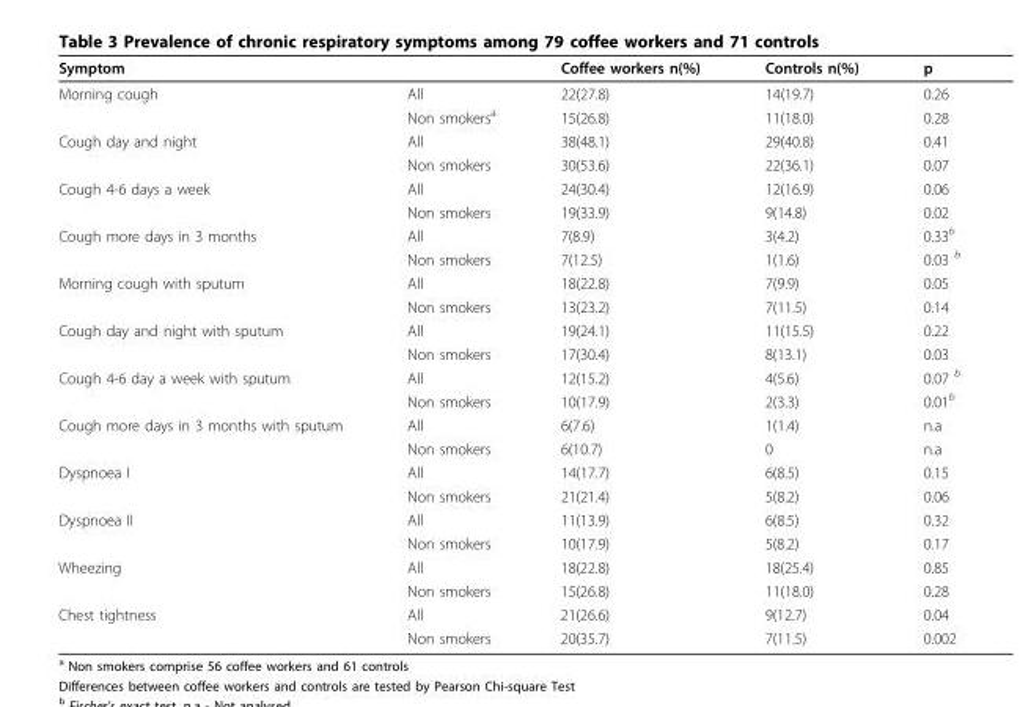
<table><thead><tr><td>Symptom</td><td></td><td>Coffee workers n(%)</td><td>Controls n(%)</td><td>p</td></tr></thead><tbody><tr><td rowspan="2">Morning cough</td><td>All</td><td>22(27.8)</td><td>14(19.7)</td><td>0.26</td></tr><tr><td>Non smokers<sup>a</sup></td><td>15(26.8)</td><td>11(18.0)</td><td>0.28</td></tr><tr><td rowspan="2">Cough day and night</td><td>All</td><td>38(48.1)</td><td>29(40.8)</td><td>0.41</td></tr><tr><td>Non smokers</td><td>30(53.6)</td><td>22(36.1)</td><td>0.07</td></tr><tr><td rowspan="2">Cough 4-6 days a week</td><td>All</td><td>24(30.4)</td><td>12(16.9)</td><td>0.06</td></tr><tr><td>Non smokers</td><td>19(33.9)</td><td>9(14.8)</td><td>0.02</td></tr><tr><td rowspan="2">Cough more days in 3 months</td><td>All</td><td>7(8.9)</td><td>3(4.2)</td><td>0.33<sup>b</sup></td></tr><tr><td>Non smokers</td><td>7(12.5)</td><td>1(1.6)</td><td>0.03 <sup>b</sup></td></tr><tr><td rowspan="2">Morning cough with sputum</td><td>All</td><td>18(22.8)</td><td>7(9.9)</td><td>0.05</td></tr><tr><td>Non smokers</td><td>13(23.2)</td><td>7(11.5)</td><td>0.14</td></tr><tr><td rowspan="2">Cough day and night with sputum</td><td>All</td><td>19(24.1)</td><td>11(15.5)</td><td>0.22</td></tr><tr><td>Non smokers</td><td>17(30.4)</td><td>8(13.1)</td><td>0.03</td></tr><tr><td rowspan="2">Cough 4-6 day a week with sputum</td><td>All</td><td>12(15.2)</td><td>4(5.6)</td><td>0.07 <sup>b</sup></td></tr><tr><td>Non smokers</td><td>10(17.9)</td><td>2(3.3)</td><td>0.01<sup>b</sup></td></tr><tr><td rowspan="2">Cough more days in 3 months with sputum</td><td>All</td><td>6(7.6)</td><td>1(1.4)</td><td>n.a</td></tr><tr><td>Non smokers</td><td>6(10.7)</td><td>0</td><td>n.a</td></tr><tr><td rowspan="2">Dyspnoea I</td><td>All</td><td>14(17.7)</td><td>6(8.5)</td><td>0.15</td></tr><tr><td>Non smokers</td><td>21(21.4)</td><td>5(8.2)</td><td>0.06</td></tr><tr><td rowspan="2">Dyspnoea II</td><td>All</td><td>11(13.9)</td><td>6(8.5)</td><td>0.32</td></tr><tr><td>Non smokers</td><td>10(17.9)</td><td>5(8.2)</td><td>0.17</td></tr><tr><td rowspan="2">Wheezing</td><td>All</td><td>18(22.8)</td><td>18(25.4)</td><td>0.85</td></tr><tr><td>Non smokers</td><td>15(26.8)</td><td>11(18.0)</td><td>0.28</td></tr><tr><td rowspan="2">Chest tightness</td><td>All</td><td>21(26.6)</td><td>9(12.7)</td><td>0.04</td></tr><tr><td>Non smokers</td><td>20(35.7)</td><td>7(11.5)</td><td>0.002</td></tr></tbody></table>